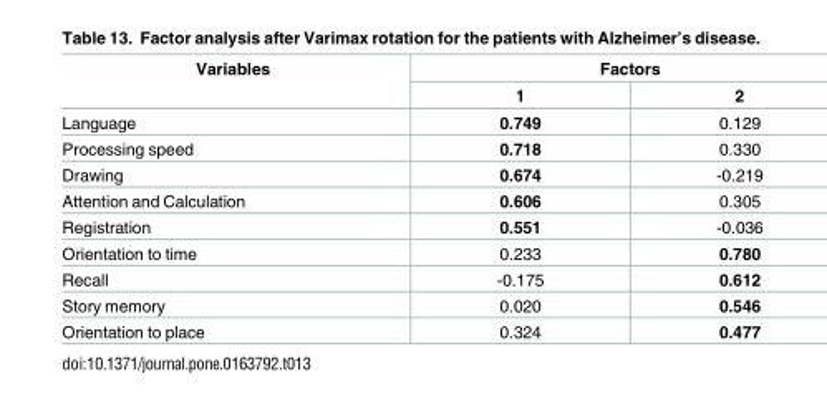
<table><thead><tr><td rowspan="2">Variables</td><td colspan="2">Factors</td></tr><tr><td>1</td><td>2</td></tr></thead><tbody><tr><td>Language</td><td>0.749</td><td>0.129</td></tr><tr><td>Processing speed</td><td>0.718</td><td>0.330</td></tr><tr><td>Drawing</td><td>0.674</td><td>-0.219</td></tr><tr><td>Attention and Calculation</td><td>0.606</td><td>0.305</td></tr><tr><td>Registration</td><td>0.551</td><td>-0.036</td></tr><tr><td>Orientation to time</td><td>0.233</td><td>0.780</td></tr><tr><td>Recall</td><td>-0.175</td><td>0.612</td></tr><tr><td>Story memory</td><td>0.020</td><td>0.546</td></tr><tr><td>Orientation to place</td><td>0.324</td><td>0.477</td></tr></tbody></table>